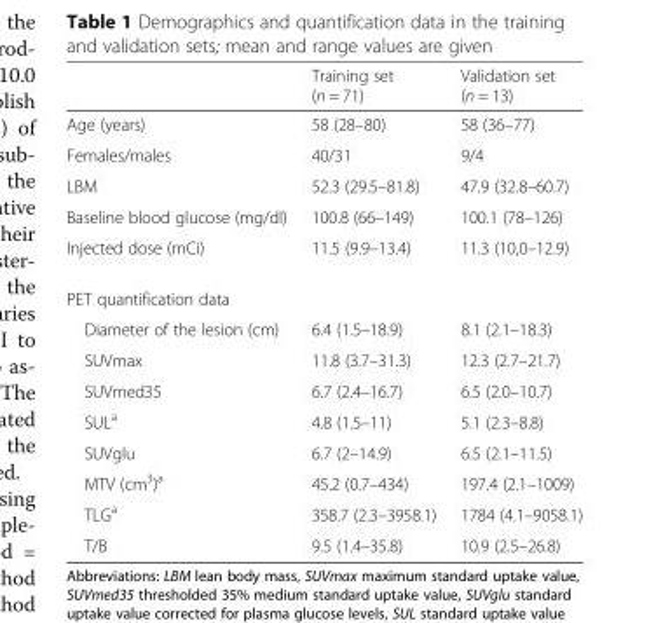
<table><thead><tr><td></td><td>Training set (n = 71)</td><td>Validation set (n = 13)</td></tr></thead><tbody><tr><td>Age (years)</td><td>58 (28–80)</td><td>58 (36–77)</td></tr><tr><td>Females/males</td><td>40/31</td><td>9/4</td></tr><tr><td>LBM</td><td>52.3 (29.5–81.8)</td><td>47.9 (32.8–60.7)</td></tr><tr><td>Baseline blood glucose (mg/dl)</td><td>100.8 (66–149)</td><td>100.1 (78–126)</td></tr><tr><td>Injected dose (mCi)</td><td>11.5 (9.9–13.4)</td><td>11.3 (10,0–12.9)</td></tr><tr><td colspan="3">PET quantification data</td></tr><tr><td>Diameter of the lesion (cm)</td><td>6.4 (1.5–18.9)</td><td>8.1 (2.1–18.3)</td></tr><tr><td>SUVmax</td><td>11.8 (3.7–31.3)</td><td>12.3 (2.7–21.7)</td></tr><tr><td>SUVmed35</td><td>6.7 (2.4–16.7)</td><td>6.5 (2.0–10.7)</td></tr><tr><td>SUL<sup>a</sup></td><td>4.8 (1.5–11)</td><td>5.1 (2.3–8.8)</td></tr><tr><td>SUVglu</td><td>6.7 (2–14.9)</td><td>6.5 (2.1–11.5)</td></tr><tr><td>MTV (cm<sup>3</sup>)<sup>a</sup></td><td>45.2 (0.7–434)</td><td>197.4 (2.1–1009)</td></tr><tr><td>TLG<sup>a</sup></td><td>358.7 (2.3–3958.1)</td><td>1784 (4.1–9058.1)</td></tr><tr><td>T/B</td><td>9.5 (1.4–35.8)</td><td>10.9 (2.5–26.8)</td></tr></tbody></table>